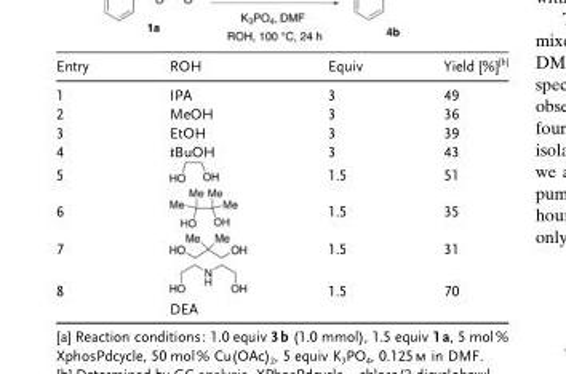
<table><thead><tr><td>Entry</td><td>ROH</td><td>Equiv</td><td>Yield [%]<sup>[b]</sup></td></tr></thead><tbody><tr><td>1</td><td>IPA</td><td>3</td><td>49</td></tr><tr><td>2</td><td>MeOH</td><td>3</td><td>36</td></tr><tr><td>3</td><td>EtOH</td><td>3</td><td>39</td></tr><tr><td>4</td><td>tBuOH</td><td>3</td><td>43</td></tr><tr><td>5</td><td></td><td>1.5</td><td>51</td></tr><tr><td>6</td><td></td><td>1.5</td><td>35</td></tr><tr><td>7</td><td></td><td>1.5</td><td>31</td></tr><tr><td rowspan="2">8</td><td></td><td>1.5</td><td>70</td></tr><tr><td>DEA</td><td></td><td></td></tr></tbody></table>